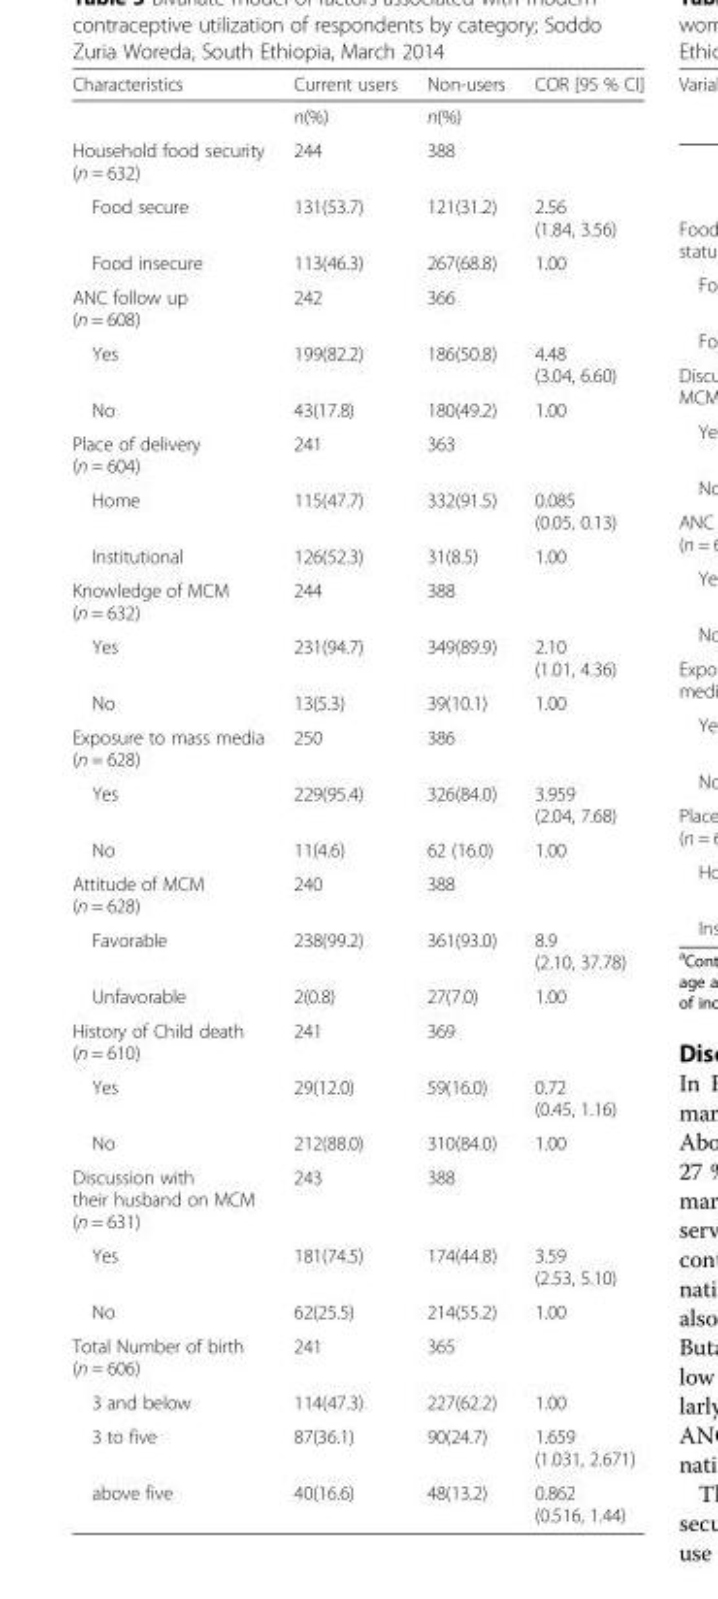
<table><thead><tr><td>Characteristics</td><td>Current users</td><td>Non-users</td><td>COR [95 % CI]</td></tr></thead><tbody><tr><td></td><td>n(%)</td><td>n(%)</td><td></td></tr><tr><td>Household food security (n = 632)</td><td>244</td><td>388</td><td></td></tr><tr><td>Food secure</td><td>131(53.7)</td><td>121(31.2)</td><td>2.56 (1.84, 3.56)</td></tr><tr><td>Food insecure</td><td>113(46.3)</td><td>267(68.8)</td><td>1.00</td></tr><tr><td>ANC follow up (n = 608)</td><td>242</td><td>366</td><td></td></tr><tr><td>Yes</td><td>199(82.2)</td><td>186(50.8)</td><td>4.48 (3.04, 6.60)</td></tr><tr><td>No</td><td>43(17.8)</td><td>180(49.2)</td><td>1.00</td></tr><tr><td>Place of delivery (n = 604)</td><td>241</td><td>363</td><td></td></tr><tr><td>Home</td><td>115(47.7)</td><td>332(91.5)</td><td>0.085 (0.05, 0.13)</td></tr><tr><td>Institutional</td><td>126(52.3)</td><td>31(8.5)</td><td>1.00</td></tr><tr><td>Knowledge of MCM (n = 632)</td><td>244</td><td>388</td><td></td></tr><tr><td>Yes</td><td>231(94.7)</td><td>349(89.9)</td><td>2.10 (1.01, 4.36)</td></tr><tr><td>No</td><td>13(5.3)</td><td>39(10.1)</td><td>1.00</td></tr><tr><td>Exposure to mass media (n = 628)</td><td>250</td><td>386</td><td></td></tr><tr><td>Yes</td><td>229(95.4)</td><td>326(84.0)</td><td>3.959 (2.04, 7.68)</td></tr><tr><td>No</td><td>11(4.6)</td><td>62 (16.0)</td><td>1.00</td></tr><tr><td>Attitude of MCM (n = 628)</td><td>240</td><td>388</td><td></td></tr><tr><td>Favorable</td><td>238(99.2)</td><td>361(93.0)</td><td>8.9 (2.10, 37.78)</td></tr><tr><td>Unfavorable</td><td>2(0.8)</td><td>27(7.0)</td><td>1.00</td></tr><tr><td>History of Child death (n = 610)</td><td>241</td><td>369</td><td></td></tr><tr><td>Yes</td><td>29(12.0)</td><td>59(16.0)</td><td>0.72 (0.45, 1.16)</td></tr><tr><td>No</td><td>212(88.0)</td><td>310(84.0)</td><td>1.00</td></tr><tr><td>Discussion with their husband on MCM (n = 631)</td><td>243</td><td>388</td><td></td></tr><tr><td>Yes</td><td>181(74.5)</td><td>174(44.8)</td><td>3.59 (2.53, 5.10)</td></tr><tr><td>No</td><td>62(25.5)</td><td>214(55.2)</td><td>1.00</td></tr><tr><td>Total Number of birth (n = 606)</td><td>241</td><td>365</td><td></td></tr><tr><td>3 and below</td><td>114(47.3)</td><td>227(62.2)</td><td>1.00</td></tr><tr><td>3 to five</td><td>87(36.1)</td><td>90(24.7)</td><td>1.659 (1.031, 2.671)</td></tr><tr><td>above five</td><td>40(16.6)</td><td>48(13.2)</td><td>0.862 (0.516, 1.44)</td></tr></tbody></table>